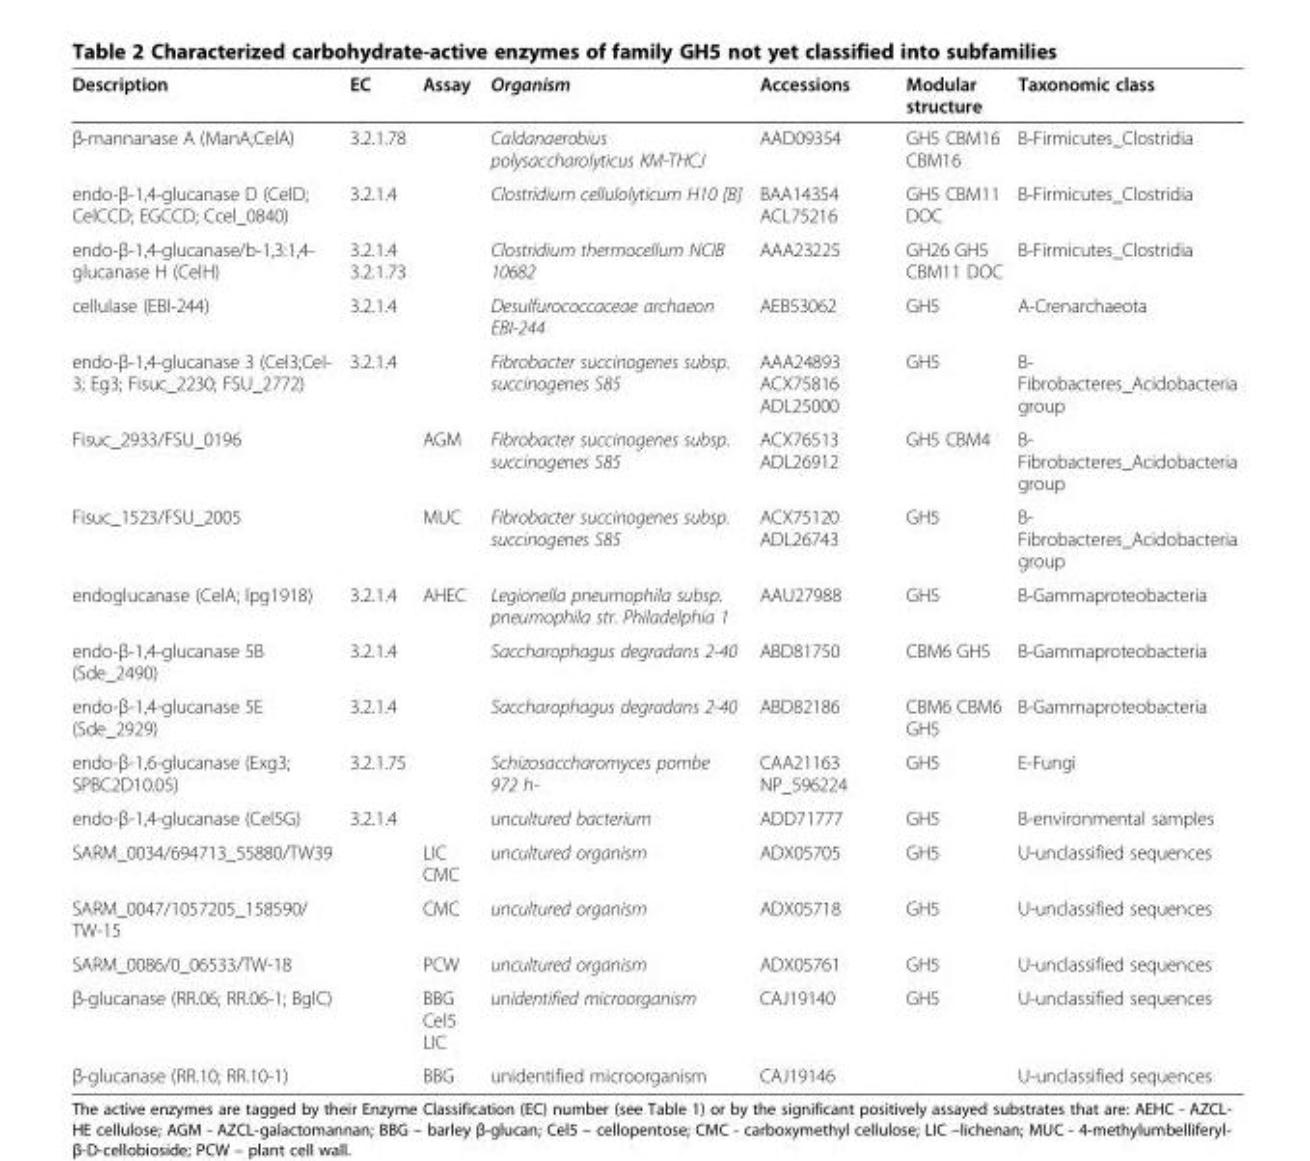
<table><thead><tr><td>Description</td><td>EC</td><td>Assay</td><td>Organism</td><td>Accessions</td><td>Modular structure</td><td>Taxonomic class</td></tr></thead><tbody><tr><td>β-mannanase A (ManA;CelA)</td><td>3.2.1.78</td><td></td><td>Caldanaerobius polysaccharolyticus KM-THCJ</td><td>AAD09354</td><td>GH5 CBM16 CBM16</td><td>B-Firmicutes_Clostridia</td></tr><tr><td>endo-β-1,4-glucanase D (CelD; CelCCD; EGCCD; Ccel_0840)</td><td>3.2.1.4</td><td></td><td>Clostridium cellulolyticum H10 [B]</td><td>BAA14354 ACL75216</td><td>GH5 CBM11 DOC</td><td>B-Firmicutes_Clostridia</td></tr><tr><td>endo-β-1,4-glucanase/b-1,3:1,4- glucanase H (CelH)</td><td>3.2.1.4 3.2.1.73</td><td></td><td>Clostridium thermocellum NCIB 10682</td><td>AAA23225</td><td>GH26 GH5 CBM11 DOC</td><td>B-Firmicutes_Clostridia</td></tr><tr><td>cellulase (EBI-244)</td><td>3.2.1.4</td><td></td><td>Desulfurococcaceae archaeon EBI-244</td><td>AEB53062</td><td>GH5</td><td>A-Crenarchaeota</td></tr><tr><td>endo-β-1,4-glucanase 3 (Cel3;Cel- 3; Eg3; Fisuc_2230; FSU_2772)</td><td>3.2.1.4</td><td></td><td>Fibrobacter succinogenes subsp. succinogenes S85</td><td>AAA24893 ACX75816 ADL25000</td><td>GH5</td><td>B- Fibrobacteres_Acidobacteria group</td></tr><tr><td>Fisuc_2933/FSU_0196</td><td></td><td>AGM</td><td>Fibrobacter succinogenes subsp. succinogenes S85</td><td>ACX76513 ADL26912</td><td>GH5 CBM4</td><td>B- Fibrobacteres_Acidobacteria group</td></tr><tr><td>Fisuc_1523/FSU_2005</td><td></td><td>MUC</td><td>Fibrobacter succinogenes subsp. succinogenes S85</td><td>ACX75120 ADL26743</td><td>GH5</td><td>B- Fibrobacteres_Acidobacteria group</td></tr><tr><td>endoglucanase (CelA; lpg1918)</td><td>3.2.1.4</td><td>AHEC</td><td>Legionella pneumophila subsp. pneumophila str. Philadelphia 1</td><td>AAU27988</td><td>GH5</td><td>B-Gammaproteobacteria</td></tr><tr><td>endo-β-1,4-glucanase 5B (Sde_2490)</td><td>3.2.1.4</td><td></td><td>Saccharophagus degradans 2-40</td><td>ABD81750</td><td>CBM6 GH5</td><td>B-Gammaproteobacteria</td></tr><tr><td>endo-β-1,4-glucanase 5E (Sde_2929)</td><td>3.2.1.4</td><td></td><td>Saccharophagus degradans 2-40</td><td>ABD82186</td><td>CBM6 CBM6 GH5</td><td>B-Gammaproteobacteria</td></tr><tr><td>endo-β-1,6-glucanase (Exg3; SPBC2D10.05)</td><td>3.2.1.75</td><td></td><td>Schizosaccharomyces pombe 972 h-</td><td>CAA21163 NP_596224</td><td>GH5</td><td>E-Fungi</td></tr><tr><td>endo-β-1,4-glucanase (Cel5G)</td><td>3.2.1.4</td><td></td><td>uncultured bacterium</td><td>ADD71777</td><td>GH5</td><td>B-environmental samples</td></tr><tr><td>SARM_0034/694713_55880/TW39</td><td></td><td>LIC CMC</td><td>uncultured organism</td><td>ADX05705</td><td>GH5</td><td>U-unclassified sequences</td></tr><tr><td>SARM_0047/1057205_158590/ TW-15</td><td></td><td>CMC</td><td>uncultured organism</td><td>ADX05718</td><td>GH5</td><td>U-unclassified sequences</td></tr><tr><td>SARM_0086/0_06533/TW-18</td><td></td><td>PCW</td><td>uncultured organism</td><td>ADX05761</td><td>GH5</td><td>U-unclassified sequences</td></tr><tr><td>β-glucanase (RR.06; RR.06-1; BglC)</td><td></td><td>BBG Cel5 LIC</td><td>unidentified microorganism</td><td>CAJ19140</td><td>GH5</td><td>U-unclassified sequences</td></tr><tr><td>β-glucanase (RR.10; RR.10-1)</td><td></td><td>BBG</td><td>unidentified microorganism</td><td>CAJ19146</td><td></td><td>U-unclassified sequences</td></tr></tbody></table>